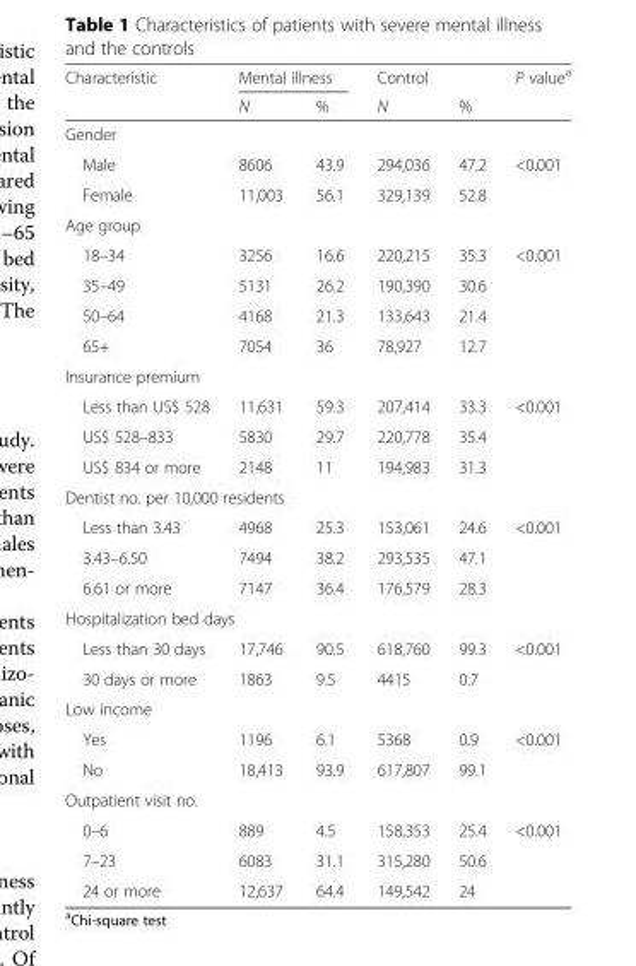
<table><thead><tr><td rowspan="2">Characteristic</td><td colspan="2">Mental illness</td><td rowspan="2">Control N</td><td rowspan="2">%</td><td rowspan="2">P value<sup>a</sup></td></tr><tr><td>N</td><td>%</td></tr></thead><tbody><tr><td colspan="6">Gender</td></tr><tr><td>Male</td><td>8606</td><td>43.9</td><td>294,036</td><td>47.2</td><td>&lt;0.001</td></tr><tr><td>Female</td><td>11,003</td><td>56.1</td><td>329,139</td><td>52.8</td><td></td></tr><tr><td colspan="6">Age group</td></tr><tr><td>18–34</td><td>3256</td><td>16.6</td><td>220,215</td><td>35.3</td><td>&lt;0.001</td></tr><tr><td>35–49</td><td>5131</td><td>26.2</td><td>190,390</td><td>30.6</td><td></td></tr><tr><td>50–64</td><td>4168</td><td>21.3</td><td>133,643</td><td>21.4</td><td></td></tr><tr><td>65+</td><td>7054</td><td>36</td><td>78,927</td><td>12.7</td><td></td></tr><tr><td colspan="6">Insurance premium</td></tr><tr><td>Less than US$ 528</td><td>11,631</td><td>59.3</td><td>207,414</td><td>33.3</td><td>&lt;0.001</td></tr><tr><td>US$ 528–833</td><td>5830</td><td>29.7</td><td>220,778</td><td>35.4</td><td></td></tr><tr><td>US$ 834 or more</td><td>2148</td><td>11</td><td>194,983</td><td>31.3</td><td></td></tr><tr><td colspan="6">Dentist no. per 10,000 residents</td></tr><tr><td>Less than 3.43</td><td>4968</td><td>25.3</td><td>153,061</td><td>24.6</td><td>&lt;0.001</td></tr><tr><td>3.43–6.50</td><td>7494</td><td>38.2</td><td>293,535</td><td>47.1</td><td></td></tr><tr><td>6.61 or more</td><td>7147</td><td>36.4</td><td>176,579</td><td>28.3</td><td></td></tr><tr><td colspan="6">Hospitalization bed days</td></tr><tr><td>Less than 30 days</td><td>17,746</td><td>90.5</td><td>618,760</td><td>99.3</td><td>&lt;0.001</td></tr><tr><td>30 days or more</td><td>1863</td><td>9.5</td><td>4415</td><td>0.7</td><td></td></tr><tr><td colspan="6">Low income</td></tr><tr><td>Yes</td><td>1196</td><td>6.1</td><td>5368</td><td>0.9</td><td>&lt;0.001</td></tr><tr><td>No</td><td>18,413</td><td>93.9</td><td>617,807</td><td>99.1</td><td></td></tr><tr><td colspan="6">Outpatient visit no.</td></tr><tr><td>0–6</td><td>889</td><td>4.5</td><td>158,353</td><td>25.4</td><td>&lt;0.001</td></tr><tr><td>7–23</td><td>6083</td><td>31.1</td><td>315,280</td><td>50.6</td><td></td></tr><tr><td>24 or more</td><td>12,637</td><td>64.4</td><td>149,542</td><td>24</td><td></td></tr></tbody></table>